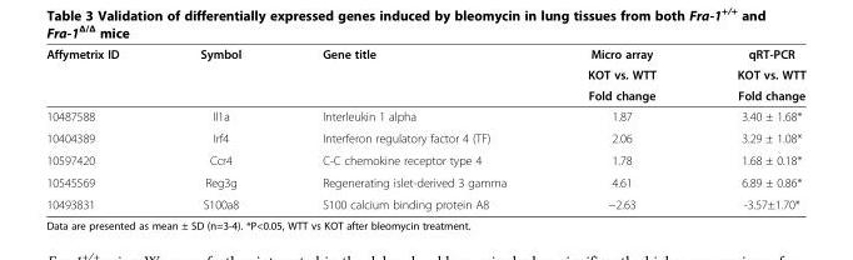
<table><thead><tr><td rowspan="3">Affymetrix ID</td><td rowspan="3">Symbol</td><td rowspan="3">Gene title</td><td rowspan="3">Micro array KOT vs. WTT Fold change</td><td rowspan="3">qRT-PCR KOT vs. WTT Fold change</td></tr><tr></tr><tr></tr></thead><tbody><tr><td>10487588</td><td>Il1a</td><td>Interleukin 1 alpha</td><td>1.87</td><td>3.40 ± 1.68*</td></tr><tr><td>10404389</td><td>Irf4</td><td>Interferon regulatory factor 4 (TF)</td><td>2.06</td><td>3.29 ± 1.08*</td></tr><tr><td>10597420</td><td>Ccr4</td><td>C-C chemokine receptor type 4</td><td>1.78</td><td>1.68 ± 0.18*</td></tr><tr><td>10545569</td><td>Reg3g</td><td>Regenerating islet-derived 3 gamma</td><td>4.61</td><td>6.89 ± 0.86*</td></tr><tr><td>10493831</td><td>S100a8</td><td>S100 calcium binding protein A8</td><td>−2.63</td><td>-3.57±1.70*</td></tr></tbody></table>